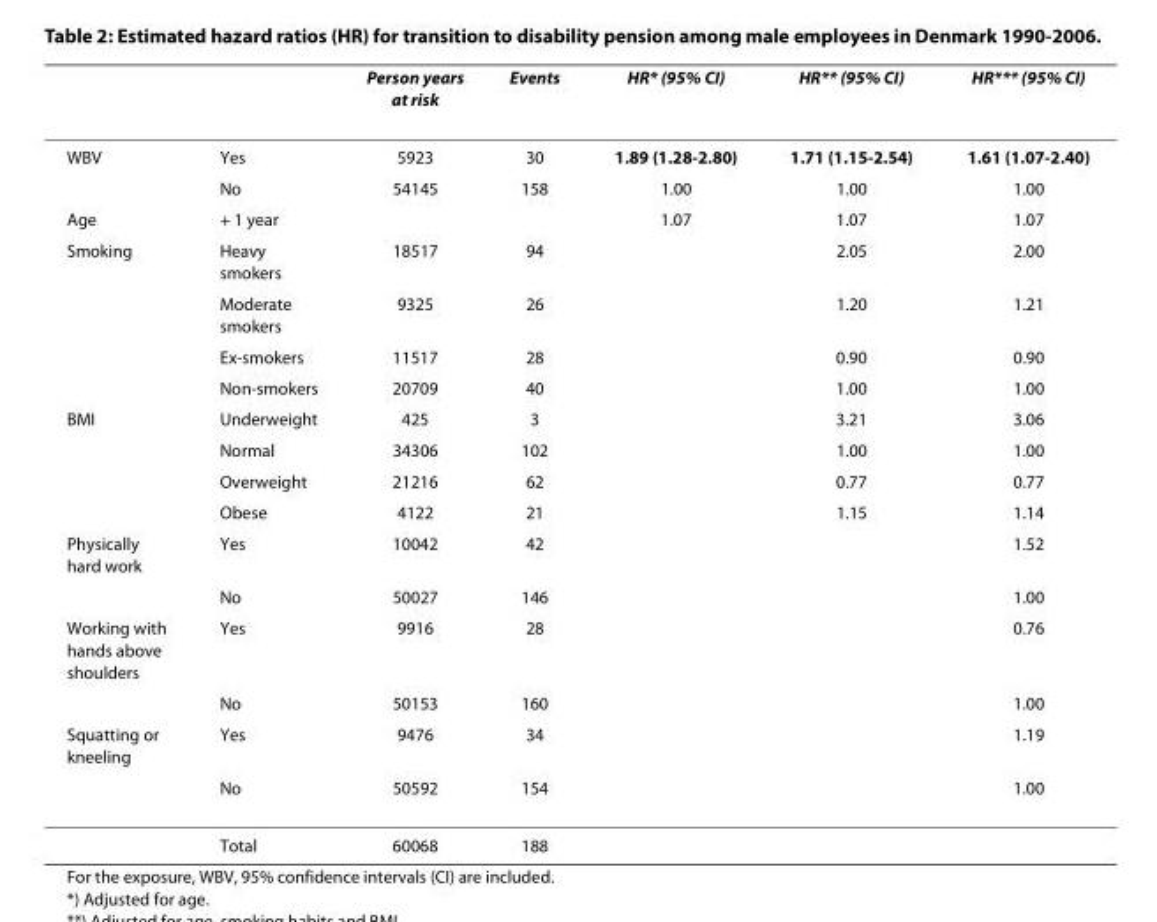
<table><thead><tr><td></td><td></td><td>Person years at risk</td><td>Events</td><td>HR* (95% CI)</td><td>HR** (95% CI)</td><td>HR*** (95% CI)</td></tr></thead><tbody><tr><td rowspan="2">WBV</td><td>Yes</td><td>5923</td><td>30</td><td>1.89 (1.28-2.80)</td><td>1.71 (1.15-2.54)</td><td>1.61 (1.07-2.40)</td></tr><tr><td>No</td><td>54145</td><td>158</td><td>1.00</td><td>1.00</td><td>1.00</td></tr><tr><td>Age</td><td>+ 1 year</td><td></td><td></td><td>1.07</td><td>1.07</td><td>1.07</td></tr><tr><td rowspan="4">Smoking</td><td>Heavy smokers</td><td>18517</td><td>94</td><td></td><td>2.05</td><td>2.00</td></tr><tr><td>Moderate smokers</td><td>9325</td><td>26</td><td></td><td>1.20</td><td>1.21</td></tr><tr><td>Ex-smokers</td><td>11517</td><td>28</td><td></td><td>0.90</td><td>0.90</td></tr><tr><td>Non-smokers</td><td>20709</td><td>40</td><td></td><td>1.00</td><td>1.00</td></tr><tr><td rowspan="4">BMI</td><td>Underweight</td><td>425</td><td>3</td><td></td><td>3.21</td><td>3.06</td></tr><tr><td>Normal</td><td>34306</td><td>102</td><td></td><td>1.00</td><td>1.00</td></tr><tr><td>Overweight</td><td>21216</td><td>62</td><td></td><td>0.77</td><td>0.77</td></tr><tr><td>Obese</td><td>4122</td><td>21</td><td></td><td>1.15</td><td>1.14</td></tr><tr><td rowspan="2">Physically hard work</td><td>Yes</td><td>10042</td><td>42</td><td></td><td></td><td>1.52</td></tr><tr><td>No</td><td>50027</td><td>146</td><td></td><td></td><td>1.00</td></tr><tr><td rowspan="2">Working with hands above shoulders</td><td>Yes</td><td>9916</td><td>28</td><td></td><td></td><td>0.76</td></tr><tr><td>No</td><td>50153</td><td>160</td><td></td><td></td><td>1.00</td></tr><tr><td rowspan="3">Squatting or kneeling</td><td>Yes</td><td>9476</td><td>34</td><td></td><td></td><td>1.19</td></tr><tr><td>No</td><td>50592</td><td>154</td><td></td><td></td><td>1.00</td></tr><tr><td>Total</td><td>60068</td><td>188</td><td></td><td></td><td></td></tr></tbody></table>